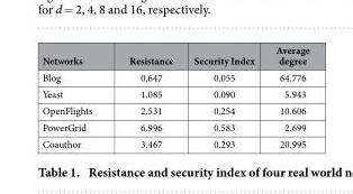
<table><thead><tr><td>Networks</td><td>Resistance</td><td>Security Index</td><td>Average degree</td></tr></thead><tbody><tr><td>Blog</td><td>0.647</td><td>0.055</td><td>64.776</td></tr><tr><td>Yeast</td><td>1.085</td><td>0.090</td><td>5.943</td></tr><tr><td>OpenFlights</td><td>2.531</td><td>0.254</td><td>10.606</td></tr><tr><td>PowerGrid</td><td>6.996</td><td>0.583</td><td>2.699</td></tr><tr><td>Coauthor</td><td>3.467</td><td>0.293</td><td>20.995</td></tr></tbody></table>